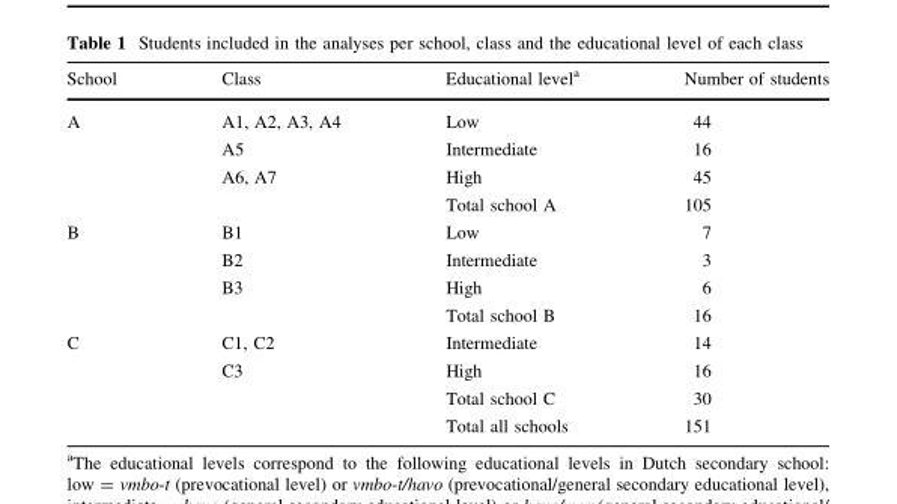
<table><thead><tr><td>School</td><td>Class</td><td>Educational level<sup>a</sup></td><td>Number of students</td></tr></thead><tbody><tr><td rowspan="4">A</td><td>A1, A2, A3, A4</td><td>Low</td><td>44</td></tr><tr><td>A5</td><td>Intermediate</td><td>16</td></tr><tr><td>A6, A7</td><td>High</td><td>45</td></tr><tr><td></td><td>Total school A</td><td>105</td></tr><tr><td rowspan="4">B</td><td>B1</td><td>Low</td><td>7</td></tr><tr><td>B2</td><td>Intermediate</td><td>3</td></tr><tr><td>B3</td><td>High</td><td>6</td></tr><tr><td></td><td>Total school B</td><td>16</td></tr><tr><td rowspan="4">C</td><td>C1, C2</td><td>Intermediate</td><td>14</td></tr><tr><td>C3</td><td>High</td><td>16</td></tr><tr><td></td><td>Total school C</td><td>30</td></tr><tr><td></td><td>Total all schools</td><td>151</td></tr></tbody></table>